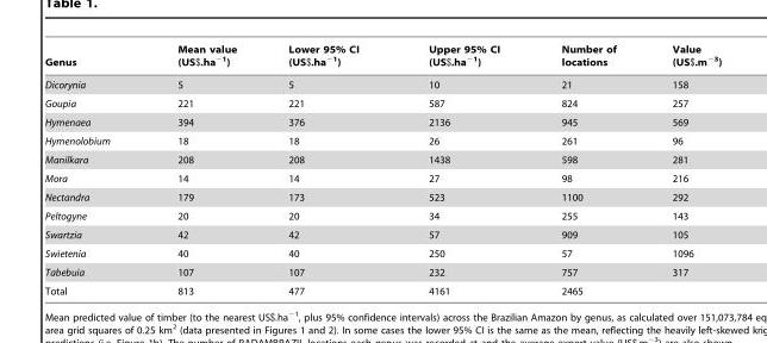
<table><thead><tr><td>Genus</td><td>Mean value (US$.ha<sup>−1</sup>)</td><td>Lower 95% CI (US$.ha<sup>−1</sup>)</td><td>Upper 95% CI (US$.ha<sup>−1</sup>)</td><td>Number of locations</td><td>Value (US$.m<sup>−3</sup>)</td></tr></thead><tbody><tr><td>Dicorynia</td><td>5</td><td>5</td><td>10</td><td>21</td><td>158</td></tr><tr><td>Goupia</td><td>221</td><td>221</td><td>587</td><td>824</td><td>257</td></tr><tr><td>Hymenaea</td><td>394</td><td>376</td><td>2136</td><td>945</td><td>569</td></tr><tr><td>Hymenolobium</td><td>18</td><td>18</td><td>26</td><td>261</td><td>96</td></tr><tr><td>Manilkara</td><td>208</td><td>208</td><td>1438</td><td>598</td><td>281</td></tr><tr><td>Mora</td><td>14</td><td>14</td><td>27</td><td>98</td><td>216</td></tr><tr><td>Nectandra</td><td>179</td><td>173</td><td>523</td><td>1100</td><td>292</td></tr><tr><td>Peltogyne</td><td>20</td><td>20</td><td>34</td><td>255</td><td>143</td></tr><tr><td>Swartzia</td><td>42</td><td>42</td><td>57</td><td>909</td><td>105</td></tr><tr><td>Swietenia</td><td>40</td><td>40</td><td>250</td><td>57</td><td>1096</td></tr><tr><td>Tabebuia</td><td>107</td><td>107</td><td>232</td><td>757</td><td>317</td></tr><tr><td>Total</td><td>813</td><td>477</td><td>4161</td><td>2465</td><td></td></tr></tbody></table>